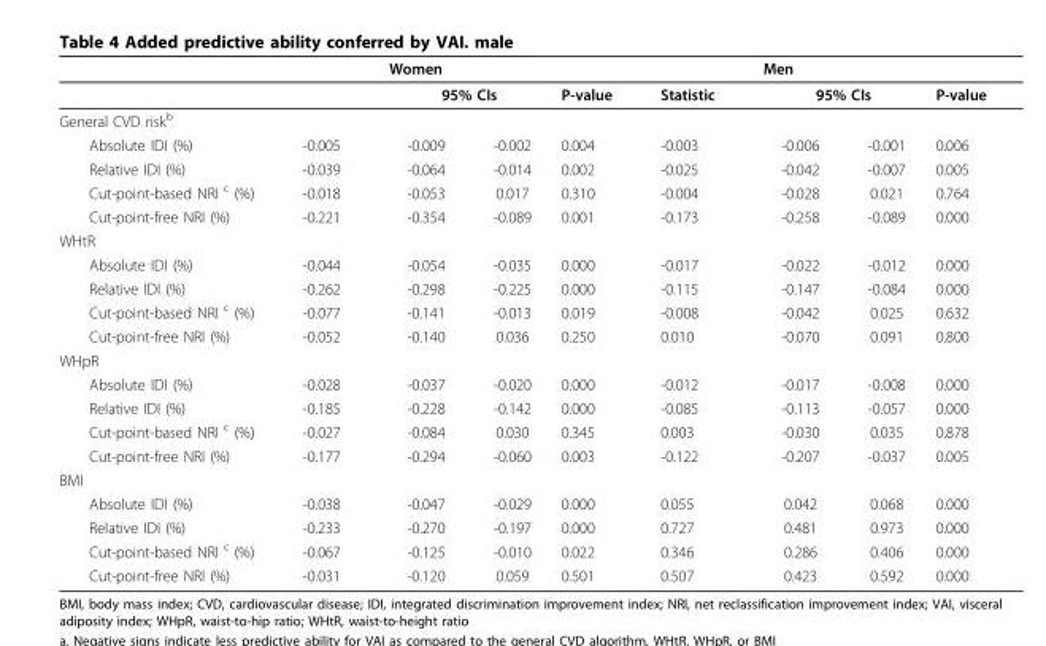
<table><thead><tr><td rowspan="3">General CVD risk<sup>b</sup></td><td rowspan="3"></td><td colspan="4">Women</td><td colspan="3">Men</td></tr><tr><td colspan="2">95% CIs</td><td rowspan="2">P-value</td><td rowspan="2">Statistic</td><td colspan="2">95% CIs</td><td rowspan="2">P-value</td></tr><tr><td></td><td></td><td></td><td></td></tr></thead><tbody><tr><td>Absolute IDI (%)</td><td>-0.005</td><td>-0.009</td><td>-0.002</td><td>0.004</td><td>-0.003</td><td>-0.006</td><td>-0.001</td><td>0.006</td></tr><tr><td>Relative IDI (%)</td><td>-0.039</td><td>-0.064</td><td>-0.014</td><td>0.002</td><td>-0.025</td><td>-0.042</td><td>-0.007</td><td>0.005</td></tr><tr><td>Cut-point-based NRI <sup>c</sup> (%)</td><td>-0.018</td><td>-0.053</td><td>0.017</td><td>0.310</td><td>-0.004</td><td>-0.028</td><td>0.021</td><td>0.764</td></tr><tr><td>Cut-point-free NRI (%)</td><td>-0.221</td><td>-0.354</td><td>-0.089</td><td>0.001</td><td>-0.173</td><td>-0.258</td><td>-0.089</td><td>0.000</td></tr><tr><td colspan="9">WHtR</td></tr><tr><td>Absolute IDI (%)</td><td>-0.044</td><td>-0.054</td><td>-0.035</td><td>0.000</td><td>-0.017</td><td>-0.022</td><td>-0.012</td><td>0.000</td></tr><tr><td>Relative IDI (%)</td><td>-0.262</td><td>-0.298</td><td>-0.225</td><td>0.000</td><td>-0.115</td><td>-0.147</td><td>-0.084</td><td>0.000</td></tr><tr><td>Cut-point-based NRI <sup>c</sup> (%)</td><td>-0.077</td><td>-0.141</td><td>-0.013</td><td>0.019</td><td>-0.008</td><td>-0.042</td><td>0.025</td><td>0.632</td></tr><tr><td>Cut-point-free NRI (%)</td><td>-0.052</td><td>-0.140</td><td>0.036</td><td>0.250</td><td>0.010</td><td>-0.070</td><td>0.091</td><td>0.800</td></tr><tr><td colspan="9">WHpR</td></tr><tr><td>Absolute IDI (%)</td><td>-0.028</td><td>-0.037</td><td>-0.020</td><td>0.000</td><td>-0.012</td><td>-0.017</td><td>-0.008</td><td>0.000</td></tr><tr><td>Relative IDI (%)</td><td>-0.185</td><td>-0.228</td><td>-0.142</td><td>0.000</td><td>-0.085</td><td>-0.113</td><td>-0.057</td><td>0.000</td></tr><tr><td>Cut-point-based NRI <sup>c</sup> (%)</td><td>-0.027</td><td>-0.084</td><td>0.030</td><td>0.345</td><td>0.003</td><td>-0.030</td><td>0.035</td><td>0.878</td></tr><tr><td>Cut-point-free NRI (%)</td><td>-0.177</td><td>-0.294</td><td>-0.060</td><td>0.003</td><td>-0.122</td><td>-0.207</td><td>-0.037</td><td>0.005</td></tr><tr><td colspan="9">BMI</td></tr><tr><td>Absolute IDI (%)</td><td>-0.038</td><td>-0.047</td><td>-0.029</td><td>0.000</td><td>0.055</td><td>0.042</td><td>0.068</td><td>0.000</td></tr><tr><td>Relative IDI (%)</td><td>-0.233</td><td>-0.270</td><td>-0.197</td><td>0.000</td><td>0.727</td><td>0.481</td><td>0.973</td><td>0.000</td></tr><tr><td>Cut-point-based NRI <sup>c</sup> (%)</td><td>-0.067</td><td>-0.125</td><td>-0.010</td><td>0.022</td><td>0.346</td><td>0.286</td><td>0.406</td><td>0.000</td></tr><tr><td>Cut-point-free NRI (%)</td><td>-0.031</td><td>-0.120</td><td>0.059</td><td>0.501</td><td>0.507</td><td>0.423</td><td>0.592</td><td>0.000</td></tr></tbody></table>